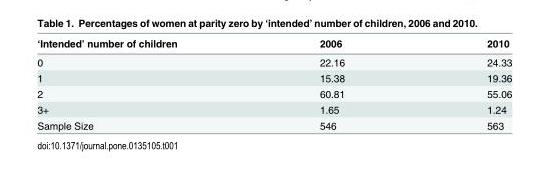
<table><thead><tr><td>‘Intended’ number of children</td><td>2006</td><td>2010</td></tr></thead><tbody><tr><td>0</td><td>22.16</td><td>24.33</td></tr><tr><td>1</td><td>15.38</td><td>19.36</td></tr><tr><td>2</td><td>60.81</td><td>55.06</td></tr><tr><td>3+</td><td>1.65</td><td>1.24</td></tr><tr><td>Sample Size</td><td>546</td><td>563</td></tr></tbody></table>